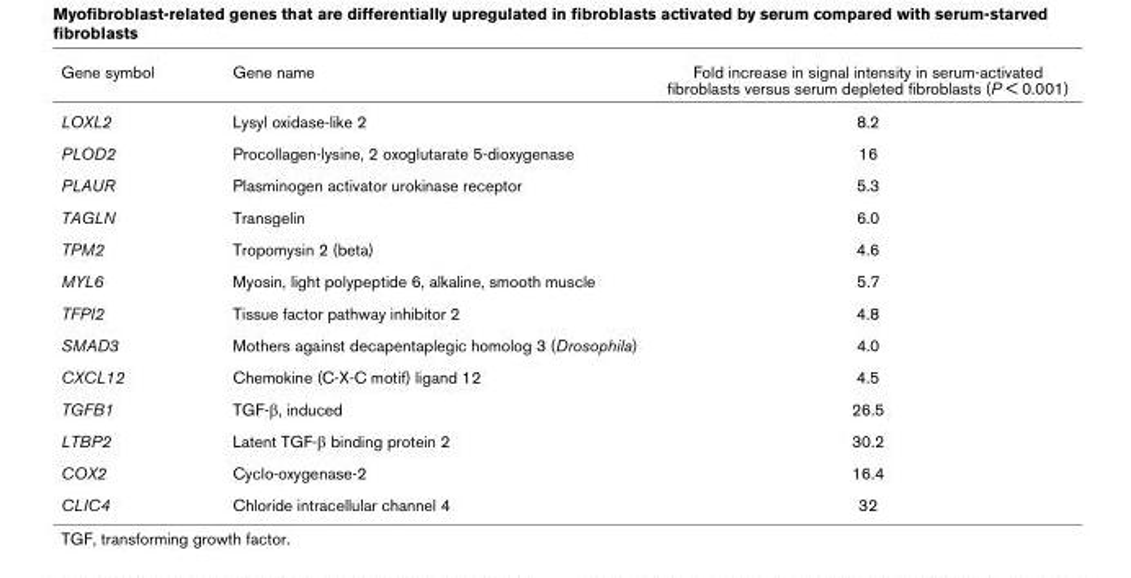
<table><thead><tr><td>Gene symbol</td><td>Gene name</td><td>Fold increase in signal intensity in serum-activated fibroblasts versus serum depleted fibroblasts (P &lt; 0.001)</td></tr></thead><tbody><tr><td>LOXL2</td><td>Lysyl oxidase-like 2</td><td>8.2</td></tr><tr><td>PLOD2</td><td>Procollagen-lysine, 2 oxoglutarate 5-dioxygenase</td><td>16</td></tr><tr><td>PLAUR</td><td>Plasminogen activator urokinase receptor</td><td>5.3</td></tr><tr><td>TAGLN</td><td>Transgelin</td><td>6.0</td></tr><tr><td>TPM2</td><td>Tropomysin 2 (beta)</td><td>4.6</td></tr><tr><td>MYL6</td><td>Myosin, light polypeptide 6, alkaline, smooth muscle</td><td>5.7</td></tr><tr><td>TFPI2</td><td>Tissue factor pathway inhibitor 2</td><td>4.8</td></tr><tr><td>SMAD3</td><td>Mothers against decapentaplegic homolog 3 (Drosophila)</td><td>4.0</td></tr><tr><td>CXCL12</td><td>Chemokine (C-X-C motif) ligand 12</td><td>4.5</td></tr><tr><td>TGFB1</td><td>TGF-β, induced</td><td>26.5</td></tr><tr><td>LTBP2</td><td>Latent TGF-β binding protein 2</td><td>30.2</td></tr><tr><td>COX2</td><td>Cyclo-oxygenase-2</td><td>16.4</td></tr><tr><td>CLIC4</td><td>Chloride intracellular channel 4</td><td>32</td></tr></tbody></table>